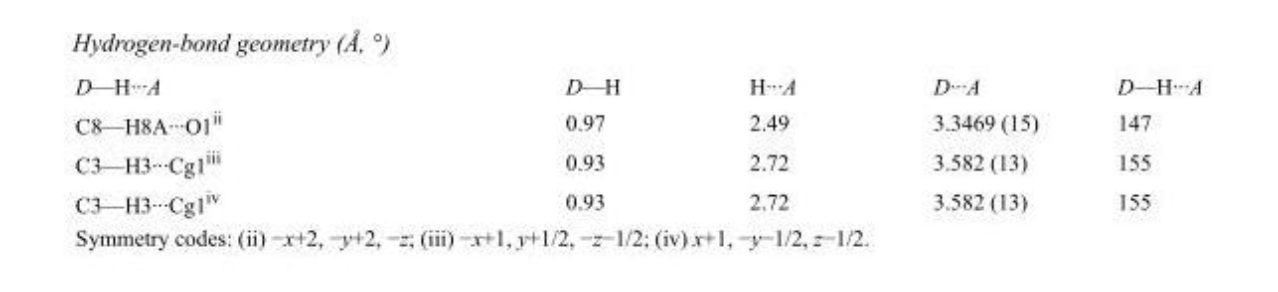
<table><tbody><tr><td>D—H···A</td><td>D—H</td><td>H···A</td><td>D···A</td><td>D—H···A</td></tr><tr><td>C8—H8A···O1<sup>ii</sup></td><td>0.97</td><td>2.49</td><td>3.3469 (15)</td><td>147</td></tr><tr><td>C3—H3···Cg1<sup>iii</sup></td><td>0.93</td><td>2.72</td><td>3.582 (13)</td><td>155</td></tr><tr><td>C3—H3···Cg1<sup>iv</sup></td><td>0.93</td><td>2.72</td><td>3.582 (13)</td><td>155</td></tr></tbody></table>